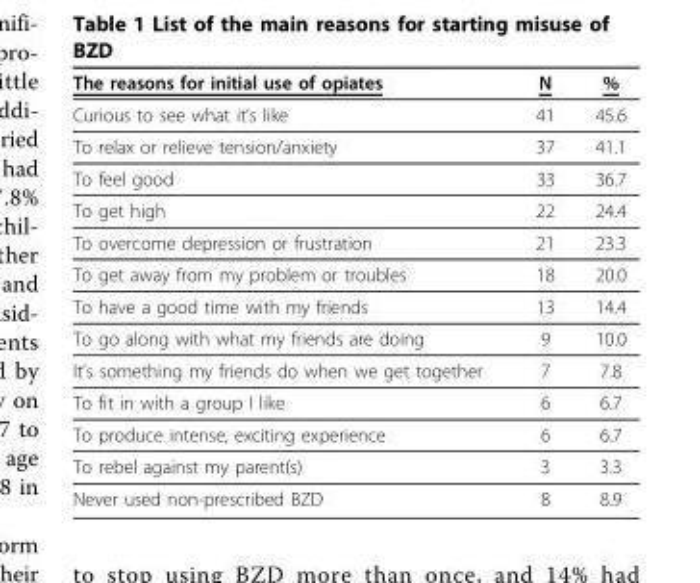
<table><thead><tr><td>The reasons for initial use of opiates</td><td>N</td><td>%</td></tr></thead><tbody><tr><td>Curious to see what it’s like</td><td>41</td><td>45.6</td></tr><tr><td>To relax or relieve tension/anxiety</td><td>37</td><td>41.1</td></tr><tr><td>To feel good</td><td>33</td><td>36.7</td></tr><tr><td>To get high</td><td>22</td><td>24.4</td></tr><tr><td>To overcome depression or frustration</td><td>21</td><td>23.3</td></tr><tr><td>To get away from my problem or troubles</td><td>18</td><td>20.0</td></tr><tr><td>To have a good time with my friends</td><td>13</td><td>14.4</td></tr><tr><td>To go along with what my friends are doing</td><td>9</td><td>10.0</td></tr><tr><td>It’s something my friends do when we get together</td><td>7</td><td>7.8</td></tr><tr><td>To fit in with a group I like</td><td>6</td><td>6.7</td></tr><tr><td>To produce intense, exciting experience</td><td>6</td><td>6.7</td></tr><tr><td>To rebel against my parent(s)</td><td>3</td><td>3.3</td></tr><tr><td>Never used non-prescribed BZD</td><td>8</td><td>8.9</td></tr></tbody></table>